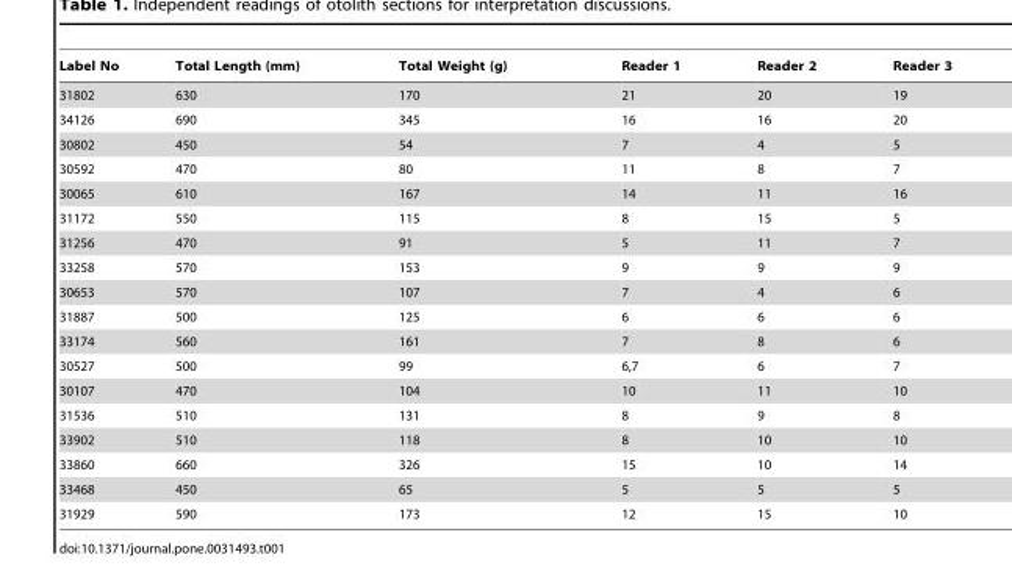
<table><thead><tr><td>Label No</td><td>Total Length (mm)</td><td>Total Weight (g)</td><td>Reader 1</td><td>Reader 2</td><td>Reader 3</td></tr></thead><tbody><tr><td>31802</td><td>630</td><td>170</td><td>21</td><td>20</td><td>19</td></tr><tr><td>34126</td><td>690</td><td>345</td><td>16</td><td>16</td><td>20</td></tr><tr><td>30802</td><td>450</td><td>54</td><td>7</td><td>4</td><td>5</td></tr><tr><td>30592</td><td>470</td><td>80</td><td>11</td><td>8</td><td>7</td></tr><tr><td>30065</td><td>610</td><td>167</td><td>14</td><td>11</td><td>16</td></tr><tr><td>31172</td><td>550</td><td>115</td><td>8</td><td>15</td><td>5</td></tr><tr><td>31256</td><td>470</td><td>91</td><td>5</td><td>11</td><td>7</td></tr><tr><td>33258</td><td>570</td><td>153</td><td>9</td><td>9</td><td>9</td></tr><tr><td>30653</td><td>570</td><td>107</td><td>7</td><td>4</td><td>6</td></tr><tr><td>31887</td><td>500</td><td>125</td><td>6</td><td>6</td><td>6</td></tr><tr><td>33174</td><td>560</td><td>161</td><td>7</td><td>8</td><td>6</td></tr><tr><td>30527</td><td>500</td><td>99</td><td>6,7</td><td>6</td><td>7</td></tr><tr><td>30107</td><td>470</td><td>104</td><td>10</td><td>11</td><td>10</td></tr><tr><td>31536</td><td>510</td><td>131</td><td>8</td><td>9</td><td>8</td></tr><tr><td>33902</td><td>510</td><td>118</td><td>8</td><td>10</td><td>10</td></tr><tr><td>33860</td><td>660</td><td>326</td><td>15</td><td>10</td><td>14</td></tr><tr><td>33468</td><td>450</td><td>65</td><td>5</td><td>5</td><td>5</td></tr><tr><td>31929</td><td>590</td><td>173</td><td>12</td><td>15</td><td>10</td></tr></tbody></table>